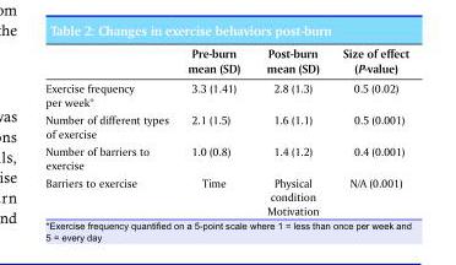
<table><thead><tr><td></td><td>Pre-burn mean (SD)</td><td>Post-burn mean (SD)</td><td>Size of effect (P-value)</td></tr></thead><tbody><tr><td>Exercise frequency per week*</td><td>3.3 (1.41)</td><td>2.8 (1.3)</td><td>0.5 (0.02)</td></tr><tr><td>Number of different types of exercise</td><td>2.1 (1.5)</td><td>1.6 (1.1)</td><td>0.5 (0.001)</td></tr><tr><td>Number of barriers to exercise</td><td>1.0 (0.8)</td><td>1.4 (1.2)</td><td>0.4 (0.001)</td></tr><tr><td>Barriers to exercise</td><td>Time</td><td>Physical condition Motivation</td><td>N/A (0.001)</td></tr></tbody></table>